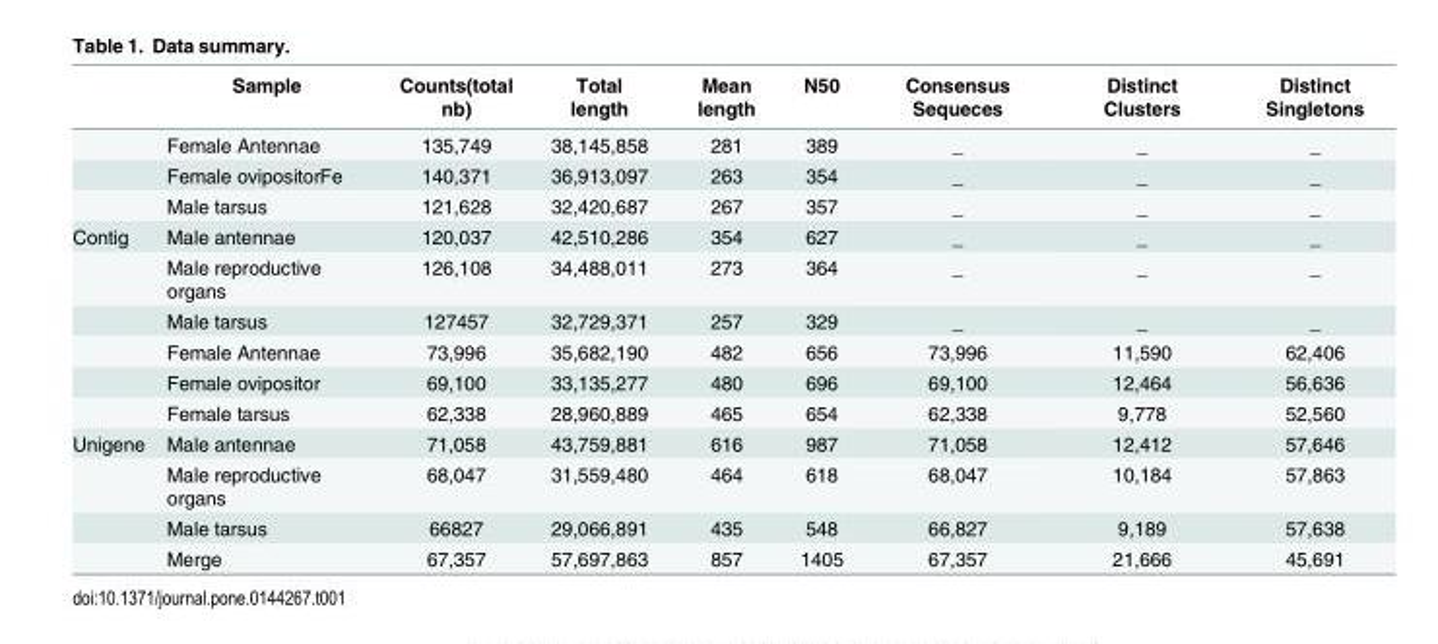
<table><thead><tr><td></td><td>Sample</td><td>Counts(total nb)</td><td>Total length</td><td>Mean length</td><td>N50</td><td>Consensus Sequeces</td><td>Distinct Clusters</td><td>Distinct Singletons</td></tr></thead><tbody><tr><td></td><td>Female Antennae</td><td>135,749</td><td>38,145,858</td><td>281</td><td>389</td><td>_</td><td>_</td><td>_</td></tr><tr><td></td><td>Female ovipositorFe</td><td>140,371</td><td>36,913,097</td><td>263</td><td>354</td><td>_</td><td>_</td><td>_</td></tr><tr><td></td><td>Male tarsus</td><td>121,628</td><td>32,420,687</td><td>267</td><td>357</td><td>_</td><td>_</td><td>_</td></tr><tr><td rowspan="6">Contig</td><td>Male antennae</td><td>120,037</td><td>42,510,286</td><td>354</td><td>627</td><td>_</td><td>_</td><td>_</td></tr><tr><td>Male reproductive organs</td><td>126,108</td><td>34,488,011</td><td>273</td><td>364</td><td>_</td><td>_</td><td>_</td></tr><tr><td>Male tarsus</td><td>127457</td><td>32,729,371</td><td>257</td><td>329</td><td>_</td><td>_</td><td>_</td></tr><tr><td>Female Antennae</td><td>73,996</td><td>35,682,190</td><td>482</td><td>656</td><td>73,996</td><td>11,590</td><td>62,406</td></tr><tr><td>Female ovipositor</td><td>69,100</td><td>33,135,277</td><td>480</td><td>696</td><td>69,100</td><td>12,464</td><td>56,636</td></tr><tr><td>Female tarsus</td><td>62,338</td><td>28,960,889</td><td>465</td><td>654</td><td>62,338</td><td>9,778</td><td>52,560</td></tr><tr><td rowspan="4">Unigene</td><td>Male antennae</td><td>71,058</td><td>43,759,881</td><td>616</td><td>987</td><td>71,058</td><td>12,412</td><td>57,646</td></tr><tr><td>Male reproductive organs</td><td>68,047</td><td>31,559,480</td><td>464</td><td>618</td><td>68,047</td><td>10,184</td><td>57,863</td></tr><tr><td>Male tarsus</td><td>66827</td><td>29,066,891</td><td>435</td><td>548</td><td>66,827</td><td>9,189</td><td>57,638</td></tr><tr><td>Merge</td><td>67,357</td><td>57,697,863</td><td>857</td><td>1405</td><td>67,357</td><td>21,666</td><td>45,691</td></tr></tbody></table>